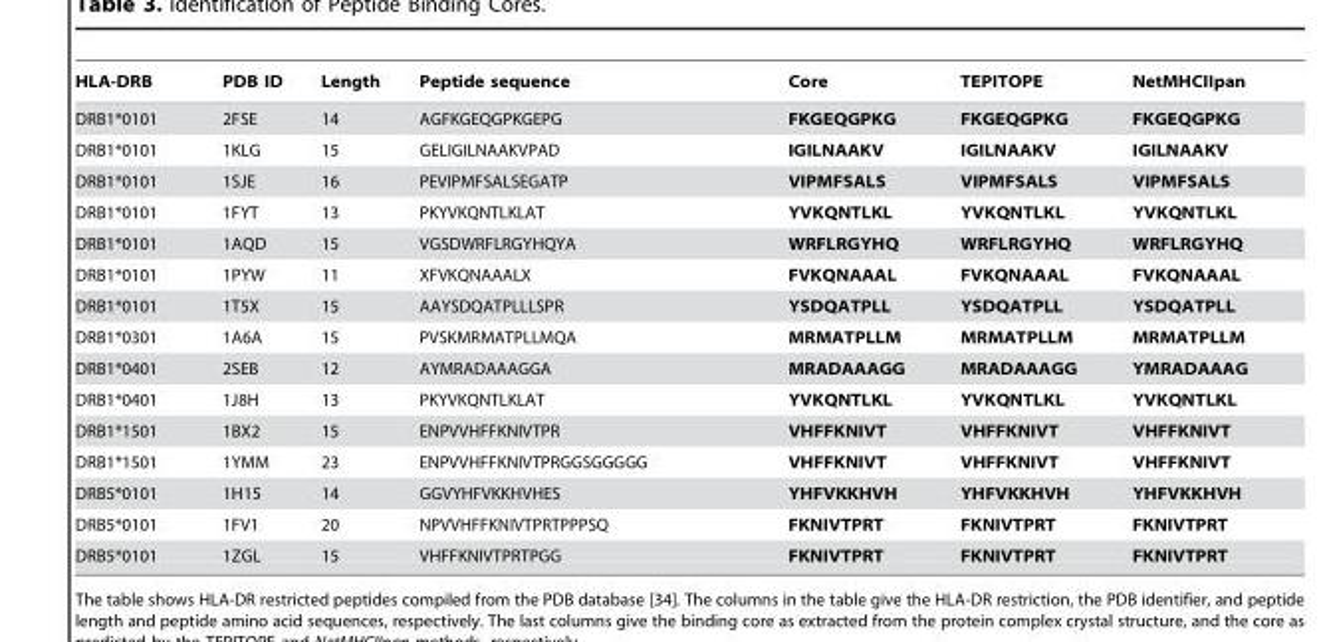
<table><thead><tr><td>HLA-DRB</td><td>PDB ID</td><td>Length</td><td>Peptide sequence</td><td>Core</td><td>TEPITOPE</td><td>NetMHCIIpan</td></tr></thead><tbody><tr><td>DRB1*0101</td><td>2FSE</td><td>14</td><td>AGFKGEQGPKGEPG</td><td>FKGEQGPKG</td><td>FKGEQGPKG</td><td>FKGEQGPKG</td></tr><tr><td>DRB1*0101</td><td>1KLG</td><td>15</td><td>GELIGILNAAKVPAD</td><td>IGILNAAKV</td><td>IGILNAAKV</td><td>IGILNAAKV</td></tr><tr><td>DRB1*0101</td><td>1SJE</td><td>16</td><td>PEVIPMFSALSEGATP</td><td>VIPMFSALS</td><td>VIPMFSALS</td><td>VIPMFSALS</td></tr><tr><td>DRB1*0101</td><td>1FYT</td><td>13</td><td>PKYVKQNTLKLAT</td><td>YVKQNTLKL</td><td>YVKQNTLKL</td><td>YVKQNTLKL</td></tr><tr><td>DRB1*0101</td><td>1AQD</td><td>15</td><td>VGSDWRFLRGYHQYA</td><td>WRFLRGYHQ</td><td>WRFLRGYHQ</td><td>WRFLRGYHQ</td></tr><tr><td>DRB1*0101</td><td>1PYW</td><td>11</td><td>XFVKQNAAALX</td><td>FVKQNAAAL</td><td>FVKQNAAAL</td><td>FVKQNAAAL</td></tr><tr><td>DRB1*0101</td><td>1T5X</td><td>15</td><td>AAYSDQATPLLLSPR</td><td>YSDQATPLL</td><td>YSDQATPLL</td><td>YSDQATPLL</td></tr><tr><td>DRB1*0301</td><td>1A6A</td><td>15</td><td>PVSKMRMATPLLMQA</td><td>MRMATPLLM</td><td>MRMATPLLM</td><td>MRMATPLLM</td></tr><tr><td>DRB1*0401</td><td>2SEB</td><td>12</td><td>AYMRADAAAGGA</td><td>MRADAAAGG</td><td>MRADAAAGG</td><td>YMRADAAAG</td></tr><tr><td>DRB1*0401</td><td>1J8H</td><td>13</td><td>PKYVKQNTLKLAT</td><td>YVKQNTLKL</td><td>YVKQNTLKL</td><td>YVKQNTLKL</td></tr><tr><td>DRB1*1501</td><td>1BX2</td><td>15</td><td>ENPVVHFFKNIVTPR</td><td>VHFFKNIVT</td><td>VHFFKNIVT</td><td>VHFFKNIVT</td></tr><tr><td>DRB1*1501</td><td>1YMM</td><td>23</td><td>ENPVVHFFKNIVTPRGGSGGGGG</td><td>VHFFKNIVT</td><td>VHFFKNIVT</td><td>VHFFKNIVT</td></tr><tr><td>DRB5*0101</td><td>1H15</td><td>14</td><td>GGVYHFVKKHVHES</td><td>YHFVKKHVH</td><td>YHFVKKHVH</td><td>YHFVKKHVH</td></tr><tr><td>DRB5*0101</td><td>1FV1</td><td>20</td><td>NPVVHFFKNIVTPRTPPPSQ</td><td>FKNIVTPRT</td><td>FKNIVTPRT</td><td>FKNIVTPRT</td></tr><tr><td>DRB5*0101</td><td>1ZGL</td><td>15</td><td>VHFFKNIVTPRTPGG</td><td>FKNIVTPRT</td><td>FKNIVTPRT</td><td>FKNIVTPRT</td></tr></tbody></table>